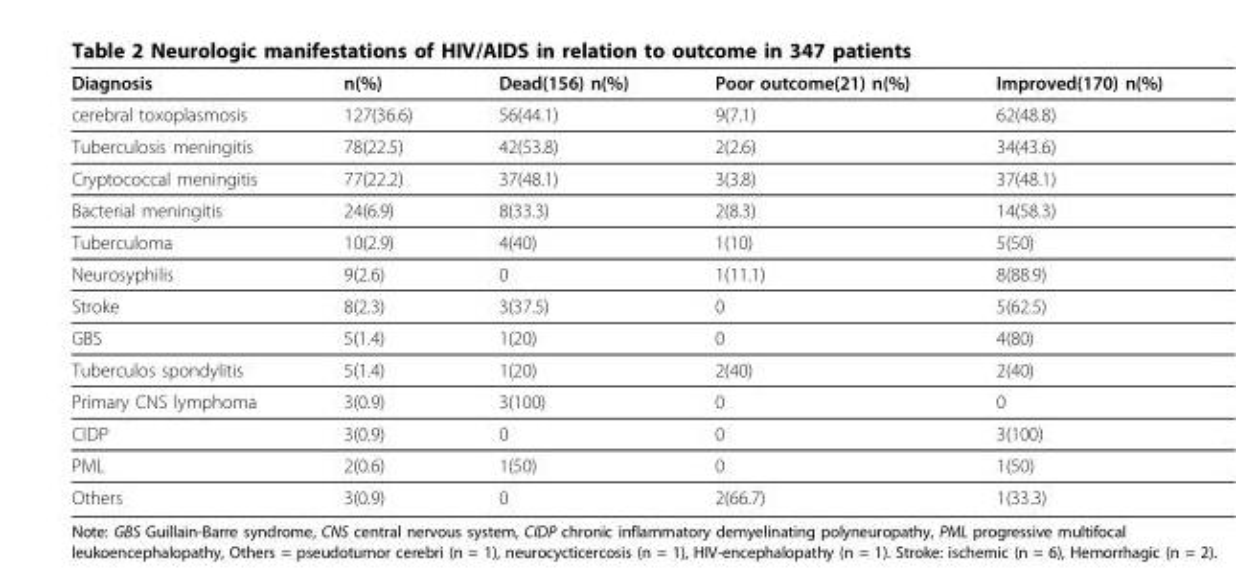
<table><thead><tr><td>Diagnosis</td><td>n(%)</td><td>Dead(156) n(%)</td><td>Poor outcome(21) n(%)</td><td>Improved(170) n(%)</td></tr></thead><tbody><tr><td>cerebral toxoplasmosis</td><td>127(36.6)</td><td>56(44.1)</td><td>9(7.1)</td><td>62(48.8)</td></tr><tr><td>Tuberculosis meningitis</td><td>78(22.5)</td><td>42(53.8)</td><td>2(2.6)</td><td>34(43.6)</td></tr><tr><td>Cryptococcal meningitis</td><td>77(22.2)</td><td>37(48.1)</td><td>3(3.8)</td><td>37(48.1)</td></tr><tr><td>Bacterial meningitis</td><td>24(6.9)</td><td>8(33.3)</td><td>2(8.3)</td><td>14(58.3)</td></tr><tr><td>Tuberculoma</td><td>10(2.9)</td><td>4(40)</td><td>1(10)</td><td>5(50)</td></tr><tr><td>Neurosyphilis</td><td>9(2.6)</td><td>0</td><td>1(11.1)</td><td>8(88.9)</td></tr><tr><td>Stroke</td><td>8(2.3)</td><td>3(37.5)</td><td>0</td><td>5(62.5)</td></tr><tr><td>GBS</td><td>5(1.4)</td><td>1(20)</td><td>0</td><td>4(80)</td></tr><tr><td>Tuberculos spondylitis</td><td>5(1.4)</td><td>1(20)</td><td>2(40)</td><td>2(40)</td></tr><tr><td>Primary CNS lymphoma</td><td>3(0.9)</td><td>3(100)</td><td>0</td><td>0</td></tr><tr><td>CIDP</td><td>3(0.9)</td><td>0</td><td>0</td><td>3(100)</td></tr><tr><td>PML</td><td>2(0.6)</td><td>1(50)</td><td>0</td><td>1(50)</td></tr><tr><td>Others</td><td>3(0.9)</td><td>0</td><td>2(66.7)</td><td>1(33.3)</td></tr></tbody></table>